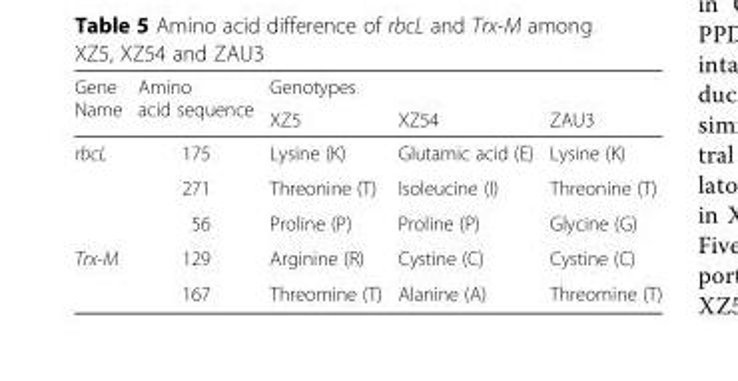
<table><thead><tr><td rowspan="2">Gene Name</td><td rowspan="2">Amino acid sequence</td><td colspan="3">Genotypes</td></tr><tr><td>XZ5</td><td>XZ54</td><td>ZAU3</td></tr></thead><tbody><tr><td rowspan="3">rbcL</td><td>175</td><td>Lysine (K)</td><td>Glutamic acid (E)</td><td>Lysine (K)</td></tr><tr><td>271</td><td>Threonine (T)</td><td>Isoleucine (I)</td><td>Threonine (T)</td></tr><tr><td>56</td><td>Proline (P)</td><td>Proline (P)</td><td>Glycine (G)</td></tr><tr><td rowspan="2">Trx-M</td><td>129</td><td>Arginine (R)</td><td>Cystine (C)</td><td>Cystine (C)</td></tr><tr><td>167</td><td>Threomine (T)</td><td>Alanine (A)</td><td>Threomine (T)</td></tr></tbody></table>